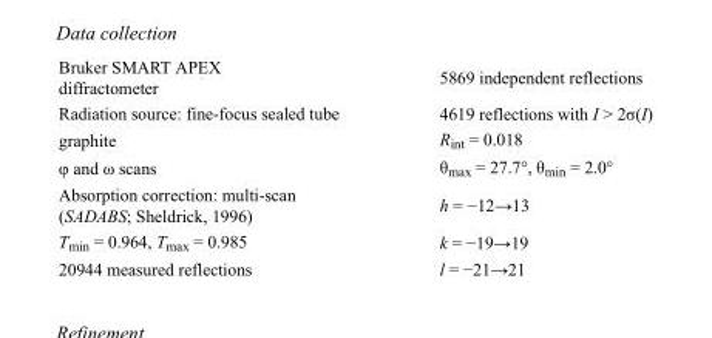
<table><tbody><tr><td>Bruker SMART APEX diffractometer</td><td>5869 independent reflections</td></tr><tr><td>Radiation source: fine-focus sealed tube</td><td>4619 reflections with I &gt; 2σ(I)</td></tr><tr><td>graphite</td><td>R<sub>int</sub> = 0.018</td></tr><tr><td>φ and ω scans</td><td>θ<sub>max</sub> = 27.7°, θ<sub>min</sub> = 2.0°</td></tr><tr><td>Absorption correction: multi-scan (SADABS; Sheldrick, 1996)</td><td>h = −12→13</td></tr><tr><td>T<sub>min</sub> = 0.964, T<sub>max</sub> = 0.985</td><td>k = −19→19</td></tr><tr><td>20944 measured reflections</td><td>l = −21→21</td></tr></tbody></table>